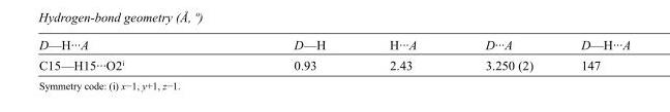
<table><tbody><tr><td>D—H···A</td><td>D—H</td><td>H···A</td><td>D···A</td><td>D—H···A</td></tr><tr><td>C15—H15···O2<sup>i</sup></td><td>0.93</td><td>2.43</td><td>3.250 (2)</td><td>147</td></tr></tbody></table>